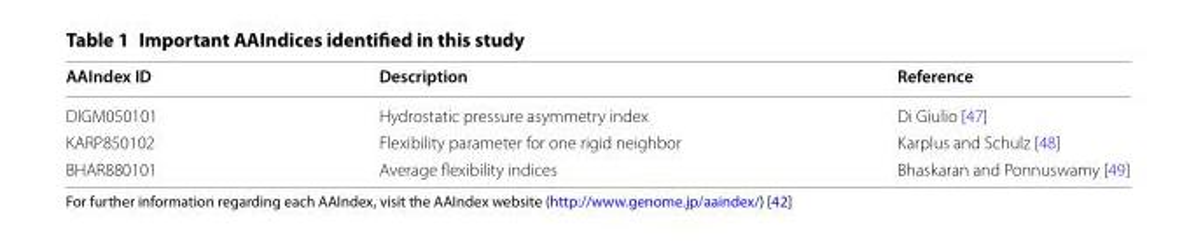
<table><thead><tr><td>AAIndex ID</td><td>Description</td><td>Reference</td></tr></thead><tbody><tr><td>DIGM050101</td><td>Hydrostatic pressure asymmetry index</td><td>Di Giulio [47]</td></tr><tr><td>KARP850102</td><td>Flexibility parameter for one rigid neighbor</td><td>Karplus and Schulz [48]</td></tr><tr><td>BHAR880101</td><td>Average flexibility indices</td><td>Bhaskaran and Ponnuswamy [49]</td></tr></tbody></table>